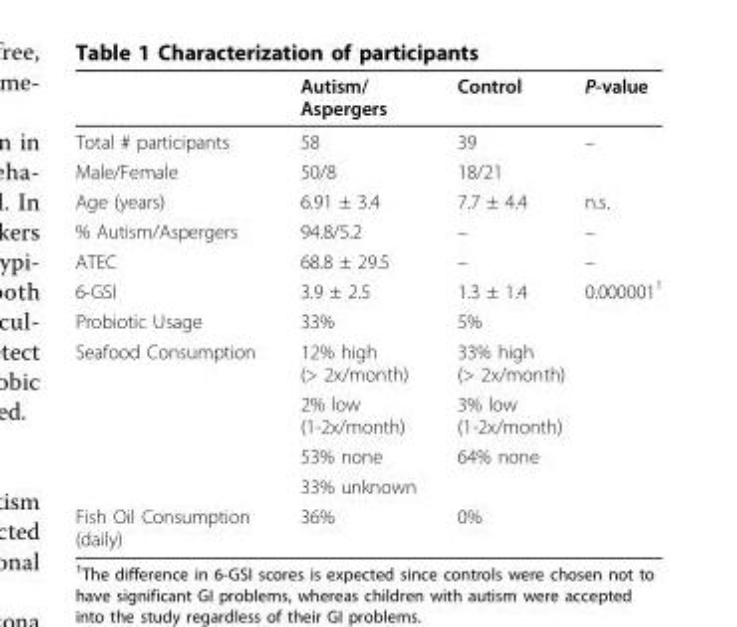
<table><thead><tr><td></td><td>Autism/ Aspergers</td><td>Control</td><td>P-value</td></tr></thead><tbody><tr><td>Total # participants</td><td>58</td><td>39</td><td>–</td></tr><tr><td>Male/Female</td><td>50/8</td><td>18/21</td><td></td></tr><tr><td>Age (years)</td><td>6.91 ± 3.4</td><td>7.7 ± 4.4</td><td>n.s.</td></tr><tr><td>% Autism/Aspergers</td><td>94.8/5.2</td><td>–</td><td>–</td></tr><tr><td>ATEC</td><td>68.8 ± 29.5</td><td>–</td><td>–</td></tr><tr><td>6-GSI</td><td>3.9 ± 2.5</td><td>1.3 ± 1.4</td><td>0.000001<sup>1</sup></td></tr><tr><td>Probiotic Usage</td><td>33%</td><td>5%</td><td></td></tr><tr><td rowspan="4">Seafood Consumption</td><td>12% high (&gt; 2x/month)</td><td>33% high (&gt; 2x/month)</td><td></td></tr><tr><td>2% low (1-2x/month)</td><td>3% low (1-2x/month)</td><td></td></tr><tr><td>53% none</td><td>64% none</td><td></td></tr><tr><td>33% unknown</td><td></td><td></td></tr><tr><td>Fish Oil Consumption (daily)</td><td>36%</td><td>0%</td><td></td></tr></tbody></table>